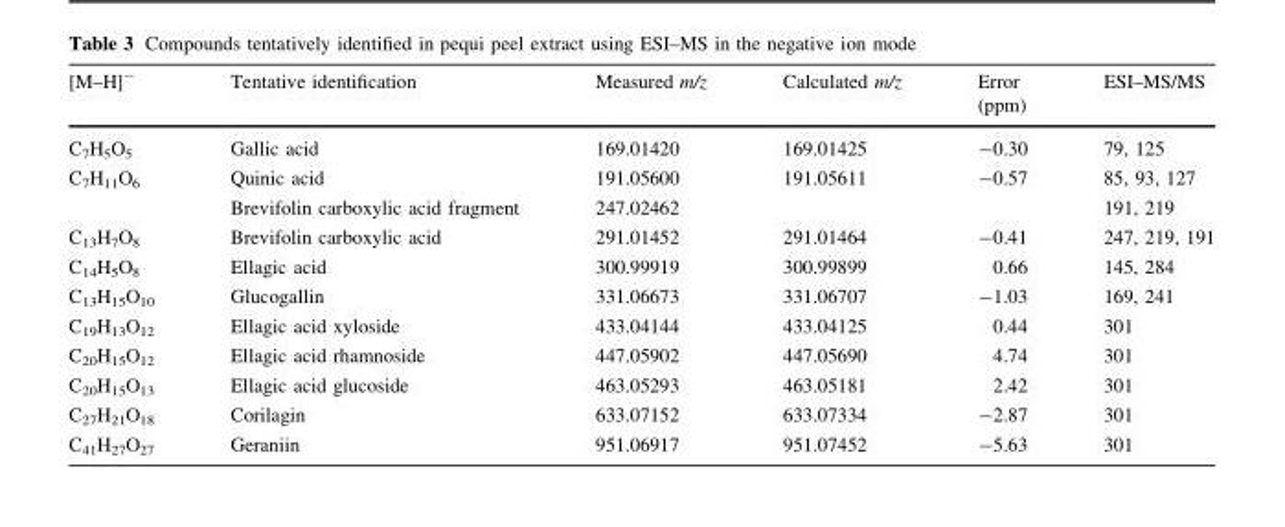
<table><thead><tr><td>[M–H]<sup>-</sup></td><td>Tentative identification</td><td>Measured m/z</td><td>Calculated m/z</td><td>Error (ppm)</td><td>ESI–MS/MS</td></tr></thead><tbody><tr><td>C<sub>7</sub>H<sub>5</sub>O<sub>5</sub></td><td>Gallic acid</td><td>169.01420</td><td>169.01425</td><td>-0.30</td><td>79, 125</td></tr><tr><td rowspan="2">C<sub>7</sub>H<sub>11</sub>O<sub>6</sub></td><td>Quinic acid</td><td>191.05600</td><td>191.05611</td><td>-0.57</td><td>85, 93, 127</td></tr><tr><td>Brevifolin carboxylic acid fragment</td><td>247.02462</td><td></td><td></td><td>191, 219</td></tr><tr><td>C<sub>13</sub>H<sub>7</sub>O<sub>8</sub></td><td>Brevifolin carboxylic acid</td><td>291.01452</td><td>291.01464</td><td>-0.41</td><td>247, 219, 191</td></tr><tr><td>C<sub>14</sub>H<sub>5</sub>O<sub>8</sub></td><td>Ellagic acid</td><td>300.99919</td><td>300.99899</td><td>0.66</td><td>145, 284</td></tr><tr><td>C<sub>13</sub>H<sub>15</sub>O<sub>10</sub></td><td>Glucogallin</td><td>331.06673</td><td>331.06707</td><td>-1.03</td><td>169, 241</td></tr><tr><td>C<sub>19</sub>H<sub>13</sub>O<sub>12</sub></td><td>Ellagic acid xyloside</td><td>433.04144</td><td>433.04125</td><td>0.44</td><td>301</td></tr><tr><td>C<sub>20</sub>H<sub>15</sub>O<sub>12</sub></td><td>Ellagic acid rhamnoside</td><td>447.05902</td><td>447.05690</td><td>4.74</td><td>301</td></tr><tr><td>C<sub>20</sub>H<sub>15</sub>O<sub>13</sub></td><td>Ellagic acid glucoside</td><td>463.05293</td><td>463.05181</td><td>2.42</td><td>301</td></tr><tr><td>C<sub>27</sub>H<sub>21</sub>O<sub>18</sub></td><td>Corilagin</td><td>633.07152</td><td>633.07334</td><td>-2.87</td><td>301</td></tr><tr><td>C<sub>41</sub>H<sub>27</sub>O<sub>27</sub></td><td>Geraniin</td><td>951.06917</td><td>951.07452</td><td>-5.63</td><td>301</td></tr></tbody></table>